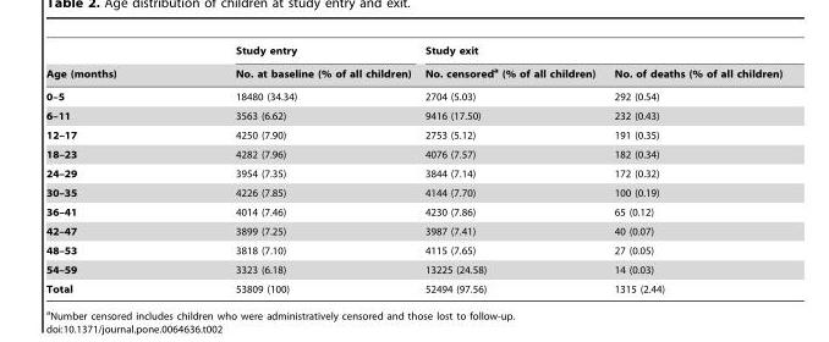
<table><thead><tr><td rowspan="2">Age (months)</td><td rowspan="2">Study entry No. at baseline (% of all children)</td><td colspan="2">Study exit</td></tr><tr><td>No. censored<sup>a</sup> (% of all children)</td><td>No. of deaths (% of all children)</td></tr></thead><tbody><tr><td>0–5</td><td>18480 (34.34)</td><td>2704 (5.03)</td><td>292 (0.54)</td></tr><tr><td>6–11</td><td>3563 (6.62)</td><td>9416 (17.50)</td><td>232 (0.43)</td></tr><tr><td>12–17</td><td>4250 (7.90)</td><td>2753 (5.12)</td><td>191 (0.35)</td></tr><tr><td>18–23</td><td>4282 (7.96)</td><td>4076 (7.57)</td><td>182 (0.34)</td></tr><tr><td>24–29</td><td>3954 (7.35)</td><td>3844 (7.14)</td><td>172 (0.32)</td></tr><tr><td>30–35</td><td>4226 (7.85)</td><td>4144 (7.70)</td><td>100 (0.19)</td></tr><tr><td>36–41</td><td>4014 (7.46)</td><td>4230 (7.86)</td><td>65 (0.12)</td></tr><tr><td>42–47</td><td>3899 (7.25)</td><td>3987 (7.41)</td><td>40 (0.07)</td></tr><tr><td>48–53</td><td>3818 (7.10)</td><td>4115 (7.65)</td><td>27 (0.05)</td></tr><tr><td>54–59</td><td>3323 (6.18)</td><td>13225 (24.58)</td><td>14 (0.03)</td></tr><tr><td>Total</td><td>53809 (100)</td><td>52494 (97.56)</td><td>1315 (2.44)</td></tr></tbody></table>